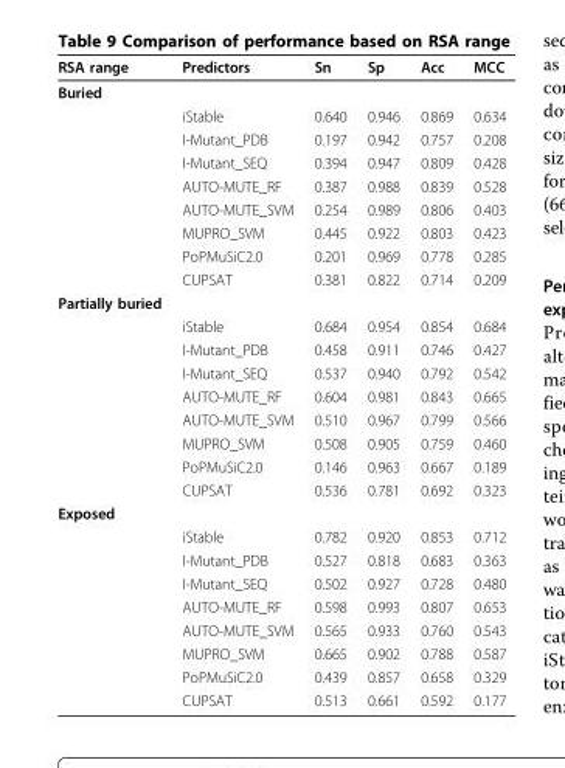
<table><thead><tr><td>RSA range</td><td>Predictors</td><td>Sn</td><td>Sp</td><td>Acc</td><td>MCC</td></tr></thead><tbody><tr><td colspan="6">Buried</td></tr><tr><td></td><td>iStable</td><td>0.640</td><td>0.946</td><td>0.869</td><td>0.634</td></tr><tr><td></td><td>I-Mutant_PDB</td><td>0.197</td><td>0.942</td><td>0.757</td><td>0.208</td></tr><tr><td></td><td>I-Mutant_SEQ</td><td>0.394</td><td>0.947</td><td>0.809</td><td>0.428</td></tr><tr><td></td><td>AUTO-MUTE_RF</td><td>0.387</td><td>0.988</td><td>0.839</td><td>0.528</td></tr><tr><td></td><td>AUTO-MUTE_SVM</td><td>0.254</td><td>0.989</td><td>0.806</td><td>0.403</td></tr><tr><td></td><td>MUPRO_SVM</td><td>0.445</td><td>0.922</td><td>0.803</td><td>0.423</td></tr><tr><td></td><td>PoPMuSiC2.0</td><td>0.201</td><td>0.969</td><td>0.778</td><td>0.285</td></tr><tr><td></td><td>CUPSAT</td><td>0.381</td><td>0.822</td><td>0.714</td><td>0.209</td></tr><tr><td colspan="6">Partially buried</td></tr><tr><td></td><td>iStable</td><td>0.684</td><td>0.954</td><td>0.854</td><td>0.684</td></tr><tr><td></td><td>I-Mutant_PDB</td><td>0.458</td><td>0.911</td><td>0.746</td><td>0.427</td></tr><tr><td></td><td>I-Mutant_SEQ</td><td>0.537</td><td>0.940</td><td>0.792</td><td>0.542</td></tr><tr><td></td><td>AUTO-MUTE_RF</td><td>0.604</td><td>0.981</td><td>0.843</td><td>0.665</td></tr><tr><td></td><td>AUTO-MUTE_SVM</td><td>0.510</td><td>0.967</td><td>0.799</td><td>0.566</td></tr><tr><td></td><td>MUPRO_SVM</td><td>0.508</td><td>0.905</td><td>0.759</td><td>0.460</td></tr><tr><td></td><td>PoPMuSiC2.0</td><td>0.146</td><td>0.963</td><td>0.667</td><td>0.189</td></tr><tr><td></td><td>CUPSAT</td><td>0.536</td><td>0.781</td><td>0.692</td><td>0.323</td></tr><tr><td colspan="6">Exposed</td></tr><tr><td></td><td>iStable</td><td>0.782</td><td>0.920</td><td>0.853</td><td>0.712</td></tr><tr><td></td><td>I-Mutant_PDB</td><td>0.527</td><td>0.818</td><td>0.683</td><td>0.363</td></tr><tr><td></td><td>I-Mutant_SEQ</td><td>0.502</td><td>0.927</td><td>0.728</td><td>0.480</td></tr><tr><td></td><td>AUTO-MUTE_RF</td><td>0.598</td><td>0.993</td><td>0.807</td><td>0.653</td></tr><tr><td></td><td>AUTO-MUTE_SVM</td><td>0.565</td><td>0.933</td><td>0.760</td><td>0.543</td></tr><tr><td></td><td>MUPRO_SVM</td><td>0.665</td><td>0.902</td><td>0.788</td><td>0.587</td></tr><tr><td></td><td>PoPMuSiC2.0</td><td>0.439</td><td>0.857</td><td>0.658</td><td>0.329</td></tr><tr><td></td><td>CUPSAT</td><td>0.513</td><td>0.661</td><td>0.592</td><td>0.177</td></tr></tbody></table>